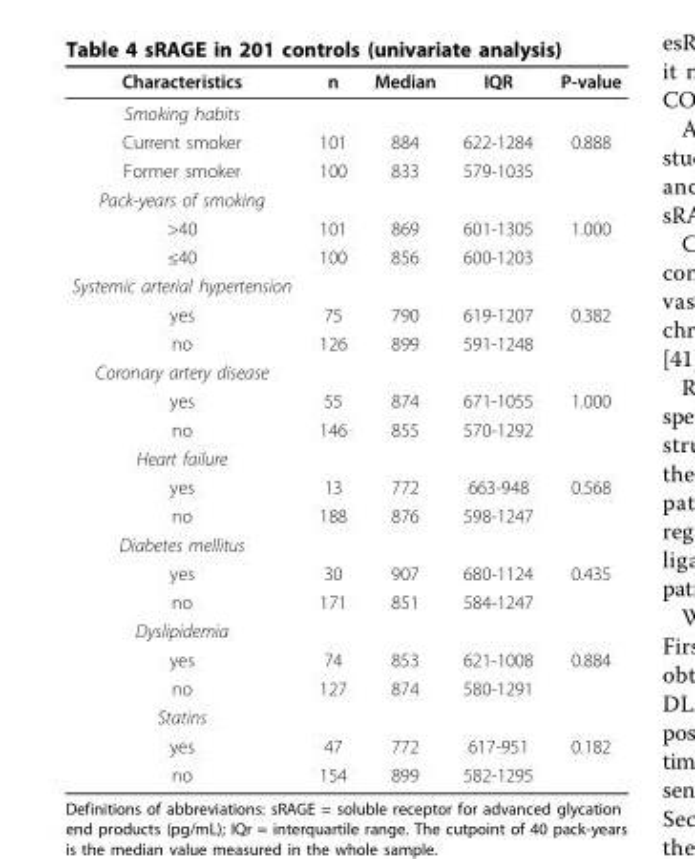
<table><thead><tr><td>Characteristics</td><td>n</td><td>Median</td><td>IQR</td><td>P-value</td></tr></thead><tbody><tr><td colspan="5">Smoking habits</td></tr><tr><td>Current smoker</td><td>101</td><td>884</td><td>622-1284</td><td>0.888</td></tr><tr><td>Former smoker</td><td>100</td><td>833</td><td>579-1035</td><td></td></tr><tr><td colspan="5">Pack-years of smoking</td></tr><tr><td>&gt;40</td><td>101</td><td>869</td><td>601-1305</td><td>1.000</td></tr><tr><td>≤40</td><td>100</td><td>856</td><td>600-1203</td><td></td></tr><tr><td colspan="5">Systemic arterial hypertension</td></tr><tr><td>yes</td><td>75</td><td>790</td><td>619-1207</td><td>0.382</td></tr><tr><td>no</td><td>126</td><td>899</td><td>591-1248</td><td></td></tr><tr><td colspan="5">Coronary artery disease</td></tr><tr><td>yes</td><td>55</td><td>874</td><td>671-1055</td><td>1.000</td></tr><tr><td>no</td><td>146</td><td>855</td><td>570-1292</td><td></td></tr><tr><td colspan="5">Heart failure</td></tr><tr><td>yes</td><td>13</td><td>772</td><td>663-948</td><td>0.568</td></tr><tr><td>no</td><td>188</td><td>876</td><td>598-1247</td><td></td></tr><tr><td colspan="5">Diabetes mellitus</td></tr><tr><td>yes</td><td>30</td><td>907</td><td>680-1124</td><td>0.435</td></tr><tr><td>no</td><td>171</td><td>851</td><td>584-1247</td><td></td></tr><tr><td colspan="5">Dyslipidemia</td></tr><tr><td>yes</td><td>74</td><td>853</td><td>621-1008</td><td>0.884</td></tr><tr><td>no</td><td>127</td><td>874</td><td>580-1291</td><td></td></tr><tr><td colspan="5">Statins</td></tr><tr><td>yes</td><td>47</td><td>772</td><td>617-951</td><td>0.182</td></tr><tr><td>no</td><td>154</td><td>899</td><td>582-1295</td><td></td></tr></tbody></table>